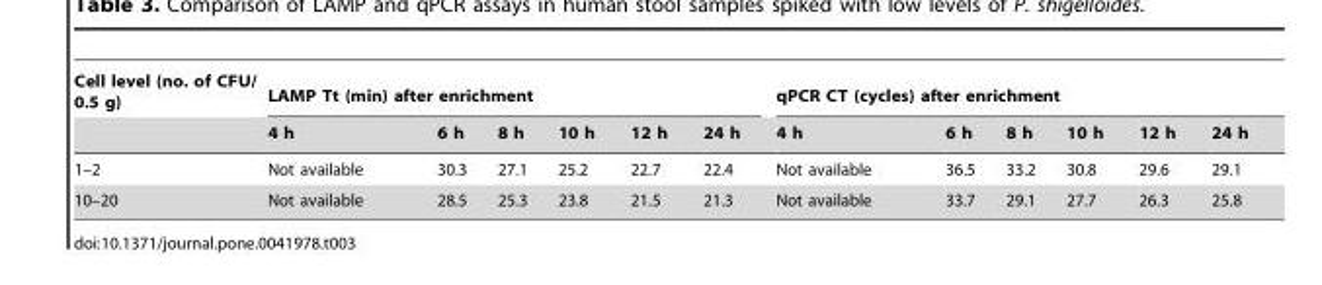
<table><thead><tr><td rowspan="2">Cell level (no. of CFU/ 0.5 g)</td><td colspan="6">LAMP Tt (min) after enrichment</td><td colspan="6">qPCR CT (cycles) after enrichment</td></tr><tr><td>4 h</td><td>6 h</td><td>8 h</td><td>10 h</td><td>12 h</td><td>24 h</td><td>4 h</td><td>6 h</td><td>8 h</td><td>10 h</td><td>12 h</td><td>24 h</td></tr></thead><tbody><tr><td>1–2</td><td>Not available</td><td>30.3</td><td>27.1</td><td>25.2</td><td>22.7</td><td>22.4</td><td>Not available</td><td>36.5</td><td>33.2</td><td>30.8</td><td>29.6</td><td>29.1</td></tr><tr><td>10–20</td><td>Not available</td><td>28.5</td><td>25.3</td><td>23.8</td><td>21.5</td><td>21.3</td><td>Not available</td><td>33.7</td><td>29.1</td><td>27.7</td><td>26.3</td><td>25.8</td></tr></tbody></table>